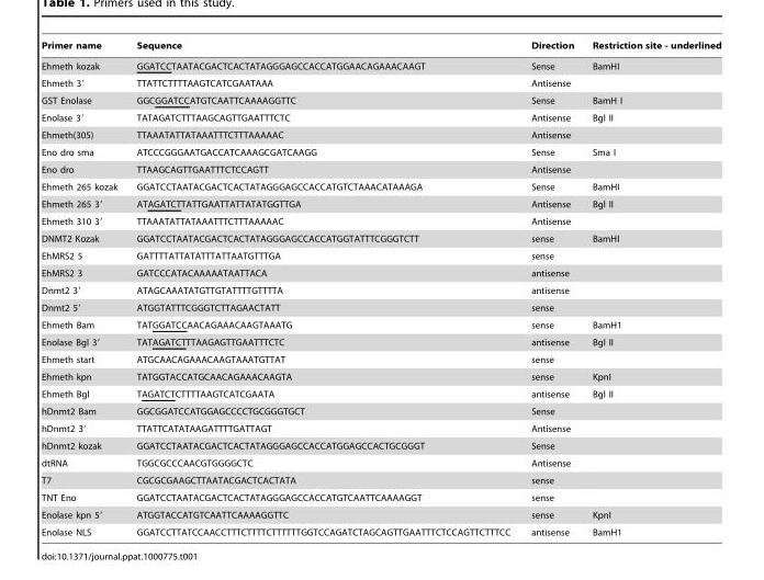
<table><thead><tr><td>Primer name</td><td>Sequence</td><td>Direction</td><td>Restriction site - underlined</td></tr></thead><tbody><tr><td>Ehmeth kozak</td><td>GGATCCTAATACGACTCACTATAGGGAGCCACCATGGAACAGAAACAAGT</td><td>Sense</td><td>BamHI</td></tr><tr><td>Ehmeth 3′</td><td>TTATTCTTTTAAGTCATCGAATAAA</td><td>Antisense</td><td></td></tr><tr><td>GST Enolase</td><td>GGCGGATCCATGTCAATTCAAAAGGTTC</td><td>Sense</td><td>BamH I</td></tr><tr><td>Enolase 3′</td><td>TATAGATCTTTAAGCAGTTGAATTTCTC</td><td>Antisense</td><td>Bgl II</td></tr><tr><td>Ehmeth(305)</td><td>TTAAATATTATAAATTTCTTTAAAAAC</td><td>Antisense</td><td></td></tr><tr><td>Eno dro sma</td><td>ATCCCGGGAATGACCATCAAAGCGATCAAGG</td><td>Sense</td><td>Sma I</td></tr><tr><td>Eno dro</td><td>TTAAGCAGTTGAATTTCTCCAGTT</td><td>Antisense</td><td></td></tr><tr><td>Ehmeth 265 kozak</td><td>GGATCCTAATACGACTCACTATAGGGAGCCACCATGTCTAAACATAAAGA</td><td>Sense</td><td>BamHI</td></tr><tr><td>Ehmeth 265 3′</td><td>ATAGATCTTATTGAATTATTATATGGTTGA</td><td>Antisense</td><td>Bgl II</td></tr><tr><td>Ehmeth 310 3′</td><td>TTAAATATTATAAATTTCTTTAAAAAC</td><td>Antisense</td><td></td></tr><tr><td>DNMT2 Kozak</td><td>GGATCCTAATACGACTCACTATAGGGAGCCACCATGGTATTTCGGGTCTT</td><td>sense</td><td>BamHI</td></tr><tr><td>EhMRS2 5</td><td>GATTTTATTATATTTATTAATGTTTGA</td><td>sense</td><td></td></tr><tr><td>EhMRS2 3</td><td>GATCCCATACAAAAATAATTACA</td><td>antisense</td><td></td></tr><tr><td>Dnmt2 3′</td><td>ATAGCAAATATGTTGTATTTTGTTTTA</td><td>antisense</td><td></td></tr><tr><td>Dnmt2 5′</td><td>ATGGTATTTCGGGTCTTAGAACTATT</td><td>sense</td><td></td></tr><tr><td>Ehmeth Bam</td><td>TATGGATCCAACAGAAACAAGTAAATG</td><td>sense</td><td>BamH1</td></tr><tr><td>Enolase Bgl 3′</td><td>TATAGATCTTTAAGAGTTGAATTTCTC</td><td>antisense</td><td>Bgl II</td></tr><tr><td>Ehmeth start</td><td>ATGCAACAGAAACAAGTAAATGTTAT</td><td>sense</td><td></td></tr><tr><td>Ehmeth kpn</td><td>TATGGTACCATGCAACAGAAACAAGTA</td><td>sense</td><td>KpnI</td></tr><tr><td>Ehmeth Bgl</td><td>TAGATCTCTTTTAAGTCATCGAATA</td><td>antisense</td><td>Bgl II</td></tr><tr><td>hDnmt2 Bam</td><td>GGCGGATCCATGGAGCCCCTGCGGGTGCT</td><td>Sense</td><td></td></tr><tr><td>hDnmt2 3′</td><td>TTATTCATATAAGATTTTGATTAGT</td><td>Antisense</td><td></td></tr><tr><td>hDnmt2 kozak</td><td>GGATCCTAATACGACTCACTATAGGGAGCCACCATGGAGCCACTGCGGGT</td><td>Sense</td><td></td></tr><tr><td>dtRNA</td><td>TGGCGCCCAACGTGGGGCTC</td><td>Antisense</td><td></td></tr><tr><td>T7</td><td>CGCGCGAAGCTTAATACGACTCACTATA</td><td>sense</td><td></td></tr><tr><td>TNT Eno</td><td>GGATCCTAATACGACTCACTATAGGGAGCCACCATGTCAATTCAAAAGGT</td><td>sense</td><td></td></tr><tr><td>Enolase kpn 5′</td><td>ATGGTACCATGTCAATTCAAAAGGTTC</td><td>sense</td><td>KpnI</td></tr><tr><td>Enolase NLS</td><td>GGATCCTTATCCAACCTTTCTTTTCTTTTTTGGTCCAGATCTAGCAGTTGAATTTCTCCAGTTCTTTCC</td><td>antisense</td><td>BamH1</td></tr></tbody></table>